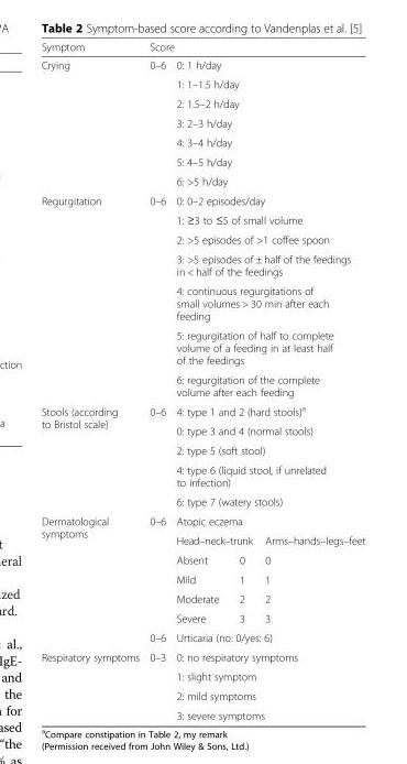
<table><thead><tr><td>Symptom</td><td colspan="4">Score</td></tr></thead><tbody><tr><td rowspan="7">Crying</td><td rowspan="7">0–6</td><td colspan="3">0: 1 h/day</td></tr><tr><td colspan="3">1: 1–1.5 h/day</td></tr><tr><td colspan="3">2: 1.5–2 h/day</td></tr><tr><td colspan="3">3: 2–3 h/day</td></tr><tr><td colspan="3">4: 3–4 h/day</td></tr><tr><td colspan="3">5: 4–5 h/day</td></tr><tr><td colspan="3">6: &gt;5 h/day</td></tr><tr><td rowspan="7">Regurgitation</td><td rowspan="7">0–6</td><td colspan="3">0: 0–2 episodes/day</td></tr><tr><td colspan="3">1: ≥3 to ≤5 of small volume</td></tr><tr><td colspan="3">2: &gt;5 episodes of &gt;1 coffee spoon</td></tr><tr><td colspan="3">3: &gt;5 episodes of ± half of the feedings in &lt; half of the feedings</td></tr><tr><td colspan="3">4: continuous regurgitations of small volumes &gt; 30 min after each feeding</td></tr><tr><td colspan="3">5: regurgitation of half to complete volume of a feeding in at least half of the feedings</td></tr><tr><td colspan="3">6: regurgitation of the complete volume after each feeding</td></tr><tr><td rowspan="5">Stools (according to Bristol scale)</td><td rowspan="5">0–6</td><td colspan="3">4: type 1 and 2 (hard stools)<sup>a</sup></td></tr><tr><td colspan="3">0: type 3 and 4 (normal stools)</td></tr><tr><td colspan="3">2: type 5 (soft stool)</td></tr><tr><td colspan="3">4: type 6 (liquid stool, if unrelated to infection)</td></tr><tr><td colspan="3">6: type 7 (watery stools)</td></tr><tr><td rowspan="7">Dermatological symptoms</td><td rowspan="6">0–6</td><td colspan="3">Atopic eczema</td></tr><tr><td colspan="2">Head–neck–trunk</td><td>Arms–hands–legs–feet</td></tr><tr><td>Absent</td><td>0</td><td>0</td></tr><tr><td>Mild</td><td>1</td><td>1</td></tr><tr><td>Moderate</td><td>2</td><td>2</td></tr><tr><td>Severe</td><td>3</td><td>3</td></tr><tr><td>0–6</td><td colspan="3">Urticaria (no: 0/yes: 6)</td></tr><tr><td rowspan="4">Respiratory symptoms</td><td rowspan="4">0–3</td><td colspan="3">0: no respiratory symptoms</td></tr><tr><td colspan="3">1: slight symptom</td></tr><tr><td colspan="3">2: mild symptoms</td></tr><tr><td colspan="3">3: severe symptoms</td></tr></tbody></table>